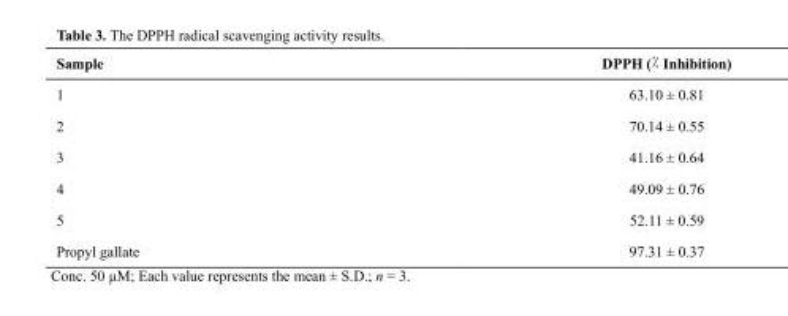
<table><thead><tr><td>Sample</td><td>DPPH (% Inhibition)</td></tr></thead><tbody><tr><td>1</td><td>63.10 ± 0.81</td></tr><tr><td>2</td><td>70.14 ± 0.55</td></tr><tr><td>3</td><td>41.16 ± 0.64</td></tr><tr><td>4</td><td>49.09 ± 0.76</td></tr><tr><td>5</td><td>52.11 ± 0.59</td></tr><tr><td>Propyl gallate</td><td>97.31 ± 0.37</td></tr></tbody></table>